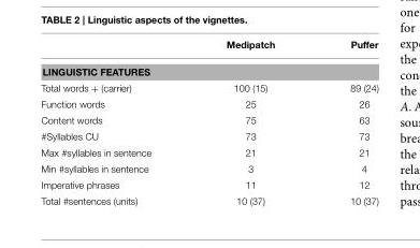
<table><thead><tr><td></td><td>Medipatch</td><td>Puffer</td></tr></thead><tbody><tr><td colspan="3">LINGUISTIC FEATURES</td></tr><tr><td>Total words + (carrier)</td><td>100 (15)</td><td>89 (24)</td></tr><tr><td>Function words</td><td>25</td><td>26</td></tr><tr><td>Content words</td><td>75</td><td>63</td></tr><tr><td>#Syllables CU</td><td>73</td><td>73</td></tr><tr><td>Max #syllables in sentence</td><td>21</td><td>21</td></tr><tr><td>Min #syllables in sentence</td><td>3</td><td>4</td></tr><tr><td>Imperative phrases</td><td>11</td><td>12</td></tr><tr><td>Total #sentences (units)</td><td>10 (37)</td><td>10 (37)</td></tr></tbody></table>